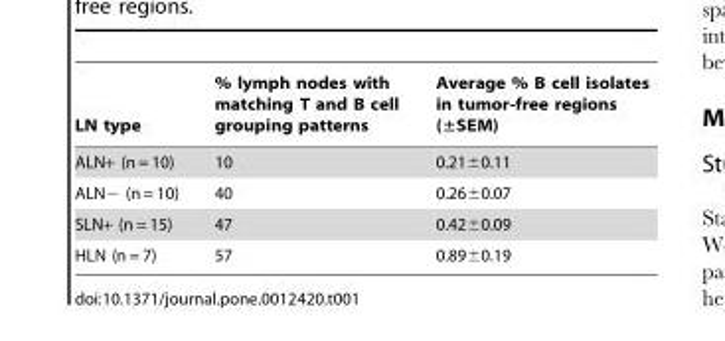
<table><thead><tr><td>LN type</td><td>% lymph nodes with matching T and B cell grouping patterns</td><td>Average % B cell isolates in tumor-free regions (±SEM)</td></tr></thead><tbody><tr><td>ALN+ (n = 10)</td><td>10</td><td>0.21±0.11</td></tr><tr><td>ALN− (n = 10)</td><td>40</td><td>0.26±0.07</td></tr><tr><td>SLN+ (n = 15)</td><td>47</td><td>0.42±0.09</td></tr><tr><td>HLN (n = 7)</td><td>57</td><td>0.89±0.19</td></tr></tbody></table>